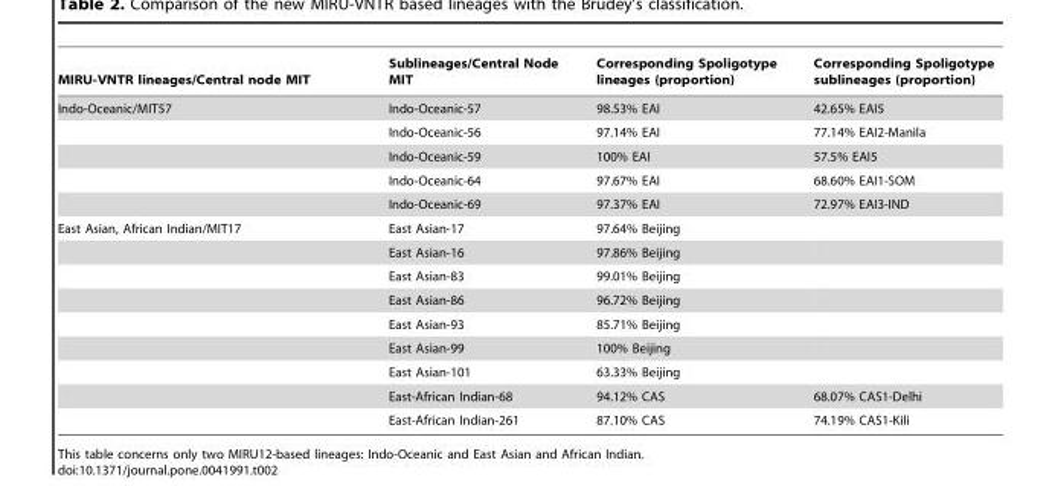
<table><thead><tr><td>MIRU-VNTR lineages/Central node MIT</td><td>Sublineages/Central Node MIT</td><td>Corresponding Spoligotype lineages (proportion)</td><td>Corresponding Spoligotype sublineages (proportion)</td></tr></thead><tbody><tr><td rowspan="5">Indo-Oceanic/MIT57</td><td>Indo-Oceanic-57</td><td>98.53% EAI</td><td>42.65% EAI5</td></tr><tr><td>Indo-Oceanic-56</td><td>97.14% EAI</td><td>77.14% EAI2-Manila</td></tr><tr><td>Indo-Oceanic-59</td><td>100% EAI</td><td>57.5% EAI5</td></tr><tr><td>Indo-Oceanic-64</td><td>97.67% EAI</td><td>68.60% EAI1-SOM</td></tr><tr><td>Indo-Oceanic-69</td><td>97.37% EAI</td><td>72.97% EAI3-IND</td></tr><tr><td rowspan="9">East Asian, African Indian/MIT17</td><td>East Asian-17</td><td>97.64% Beijing</td><td></td></tr><tr><td>East Asian-16</td><td>97.86% Beijing</td><td></td></tr><tr><td>East Asian-83</td><td>99.01% Beijing</td><td></td></tr><tr><td>East Asian-86</td><td>96.72% Beijing</td><td></td></tr><tr><td>East Asian-93</td><td>85.71% Beijing</td><td></td></tr><tr><td>East Asian-99</td><td>100% Beijing</td><td></td></tr><tr><td>East Asian-101</td><td>63.33% Beijing</td><td></td></tr><tr><td>East-African Indian-68</td><td>94.12% CAS</td><td>68.07% CAS1-Delhi</td></tr><tr><td>East-African Indian-261</td><td>87.10% CAS</td><td>74.19% CAS1-Kili</td></tr></tbody></table>